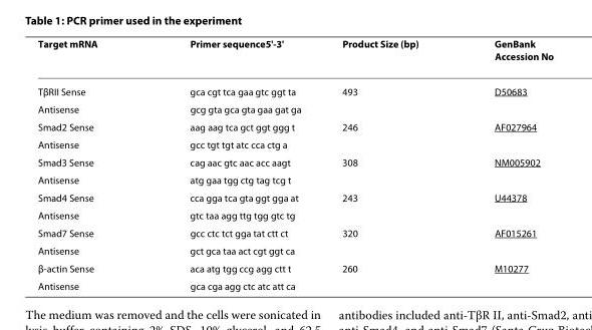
<table><thead><tr><td>Target mRNA</td><td>Primer sequence5&#x27;-3&#x27;</td><td>Product Size (bp)</td><td>GenBank Accession No</td></tr></thead><tbody><tr><td>TβRII Sense</td><td>gca cgt tca gaa gtc ggt ta</td><td>493</td><td>D50683</td></tr><tr><td>Antisense</td><td>gcg gta gca gta gaa gat ga</td><td></td><td></td></tr><tr><td>Smad2 Sense</td><td>aag aag tca gct ggt ggg t</td><td>246</td><td>AF027964</td></tr><tr><td>Antisense</td><td>gcc tgt tgt atc cca ctg a</td><td></td><td></td></tr><tr><td>Smad3 Sense</td><td>cag aac gtc aac acc aagt</td><td>308</td><td>NM005902</td></tr><tr><td>Antisense</td><td>atg gaa tgg ctg tag tcg t</td><td></td><td></td></tr><tr><td>Smad4 Sense</td><td>cca gga tca gta ggt gga at</td><td>243</td><td>U44378</td></tr><tr><td>Antisense</td><td>gtc taa agg ttg tgg gtc tg</td><td></td><td></td></tr><tr><td>Smad7 Sense</td><td>gcc ctc tct gga tat ctt ct</td><td>320</td><td>AF015261</td></tr><tr><td>Antisense</td><td>gct gca taa act cgt ggt ca</td><td></td><td></td></tr><tr><td>β-actin Sense</td><td>aca atg tgg ccg agg ctt t</td><td>260</td><td>M10277</td></tr><tr><td>Antisense</td><td>gca cga agg ctc atc att ca</td><td></td><td></td></tr></tbody></table>